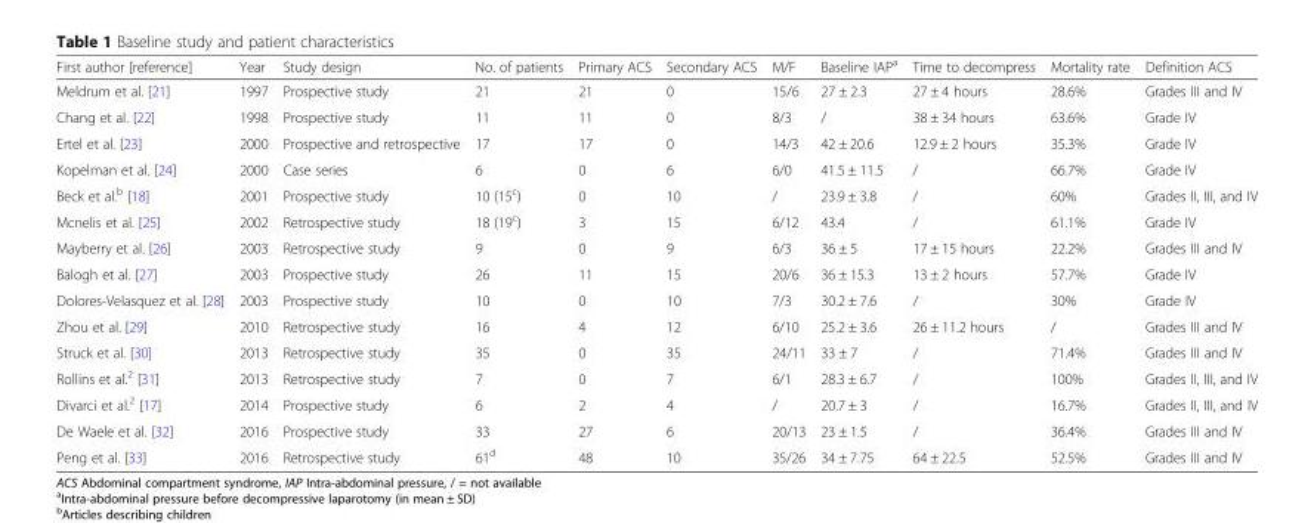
<table><thead><tr><td>First author [reference]</td><td>Year</td><td>Study design</td><td>No. of patients</td><td>Primary ACS</td><td>Secondary ACS</td><td>M/F</td><td>Baseline IAP<sup>a</sup></td><td>Time to decompress</td><td>Mortality rate</td><td>Definition ACS</td></tr></thead><tbody><tr><td>Meldrum et al. [21]</td><td>1997</td><td>Prospective study</td><td>21</td><td>21</td><td>0</td><td>15/6</td><td>27 ± 2.3</td><td>27 ± 4 hours</td><td>28.6%</td><td>Grades III and IV</td></tr><tr><td>Chang et al. [22]</td><td>1998</td><td>Prospective study</td><td>11</td><td>11</td><td>0</td><td>8/3</td><td>/</td><td>38 ± 34 hours</td><td>63.6%</td><td>Grade IV</td></tr><tr><td>Ertel et al. [23]</td><td>2000</td><td>Prospective and retrospective</td><td>17</td><td>17</td><td>0</td><td>14/3</td><td>42 ± 20.6</td><td>12.9 ± 2 hours</td><td>35.3%</td><td>Grade IV</td></tr><tr><td>Kopelman et al. [24]</td><td>2000</td><td>Case series</td><td>6</td><td>0</td><td>6</td><td>6/0</td><td>41.5 ± 11.5</td><td>/</td><td>66.7%</td><td>Grade IV</td></tr><tr><td>Beck et al.<sup>b</sup> [18]</td><td>2001</td><td>Prospective study</td><td>10 (15<sup>c</sup>)</td><td>0</td><td>10</td><td>/</td><td>23.9 ± 3.8</td><td>/</td><td>60%</td><td>Grades II, III, and IV</td></tr><tr><td>Mcnelis et al. [25]</td><td>2002</td><td>Retrospective study</td><td>18 (19<sup>c</sup>)</td><td>3</td><td>15</td><td>6/12</td><td>43.4</td><td>/</td><td>61.1%</td><td>Grade IV</td></tr><tr><td>Mayberry et al. [26]</td><td>2003</td><td>Retrospective study</td><td>9</td><td>0</td><td>9</td><td>6/3</td><td>36 ± 5</td><td>17 ± 15 hours</td><td>22.2%</td><td>Grades III and IV</td></tr><tr><td>Balogh et al. [27]</td><td>2003</td><td>Prospective study</td><td>26</td><td>11</td><td>15</td><td>20/6</td><td>36 ± 15.3</td><td>13 ± 2 hours</td><td>57.7%</td><td>Grade IV</td></tr><tr><td>Dolores-Velasquez et al. [28]</td><td>2003</td><td>Prospective study</td><td>10</td><td>0</td><td>10</td><td>7/3</td><td>30.2 ± 7.6</td><td>/</td><td>30%</td><td>Grade IV</td></tr><tr><td>Zhou et al. [29]</td><td>2010</td><td>Retrospective study</td><td>16</td><td>4</td><td>12</td><td>6/10</td><td>25.2 ± 3.6</td><td>26 ± 11.2 hours</td><td>/</td><td>Grades III and IV</td></tr><tr><td>Struck et al. [30]</td><td>2013</td><td>Retrospective study</td><td>35</td><td>0</td><td>35</td><td>24/11</td><td>33 ± 7</td><td>/</td><td>71.4%</td><td>Grades III and IV</td></tr><tr><td>Rollins et al.<sup>2</sup> [31]</td><td>2013</td><td>Retrospective study</td><td>7</td><td>0</td><td>7</td><td>6/1</td><td>28.3 ± 6.7</td><td>/</td><td>100%</td><td>Grades II, III, and IV</td></tr><tr><td>Divarci et al.<sup>2</sup> [17]</td><td>2014</td><td>Prospective study</td><td>6</td><td>2</td><td>4</td><td>/</td><td>20.7 ± 3</td><td>/</td><td>16.7%</td><td>Grades II, III, and IV</td></tr><tr><td>De Waele et al. [32]</td><td>2016</td><td>Prospective study</td><td>33</td><td>27</td><td>6</td><td>20/13</td><td>23 ± 1.5</td><td>/</td><td>36.4%</td><td>Grades III and IV</td></tr><tr><td>Peng et al. [33]</td><td>2016</td><td>Retrospective study</td><td>61<sup>d</sup></td><td>48</td><td>10</td><td>35/26</td><td>34 ± 7.75</td><td>64 ± 22.5</td><td>52.5%</td><td>Grades III and IV</td></tr></tbody></table>